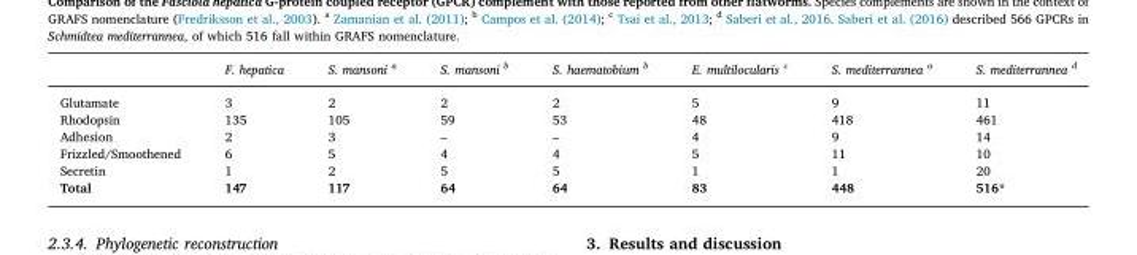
<table><thead><tr><td></td><td>F. hepatica</td><td>S. mansoni <sup>a</sup></td><td>S. mansoni <sup>b</sup></td><td>S. haematobium <sup>b</sup></td><td>E. multilocularis <sup>c</sup></td><td>S. mediterrannea <sup>a</sup></td><td>S. mediterrannea <sup>d</sup></td></tr></thead><tbody><tr><td>Glutamate</td><td>3</td><td>2</td><td>2</td><td>2</td><td>5</td><td>9</td><td>11</td></tr><tr><td>Rhodopsin</td><td>135</td><td>105</td><td>59</td><td>53</td><td>48</td><td>418</td><td>461</td></tr><tr><td>Adhesion</td><td>2</td><td>3</td><td>–</td><td>–</td><td>4</td><td>9</td><td>14</td></tr><tr><td>Frizzled/Smoothened</td><td>6</td><td>5</td><td>4</td><td>4</td><td>5</td><td>11</td><td>10</td></tr><tr><td>Secretin</td><td>1</td><td>2</td><td>5</td><td>5</td><td>1</td><td>1</td><td>20</td></tr><tr><td>Total</td><td>147</td><td>117</td><td>64</td><td>64</td><td>83</td><td>448</td><td>516*</td></tr></tbody></table>